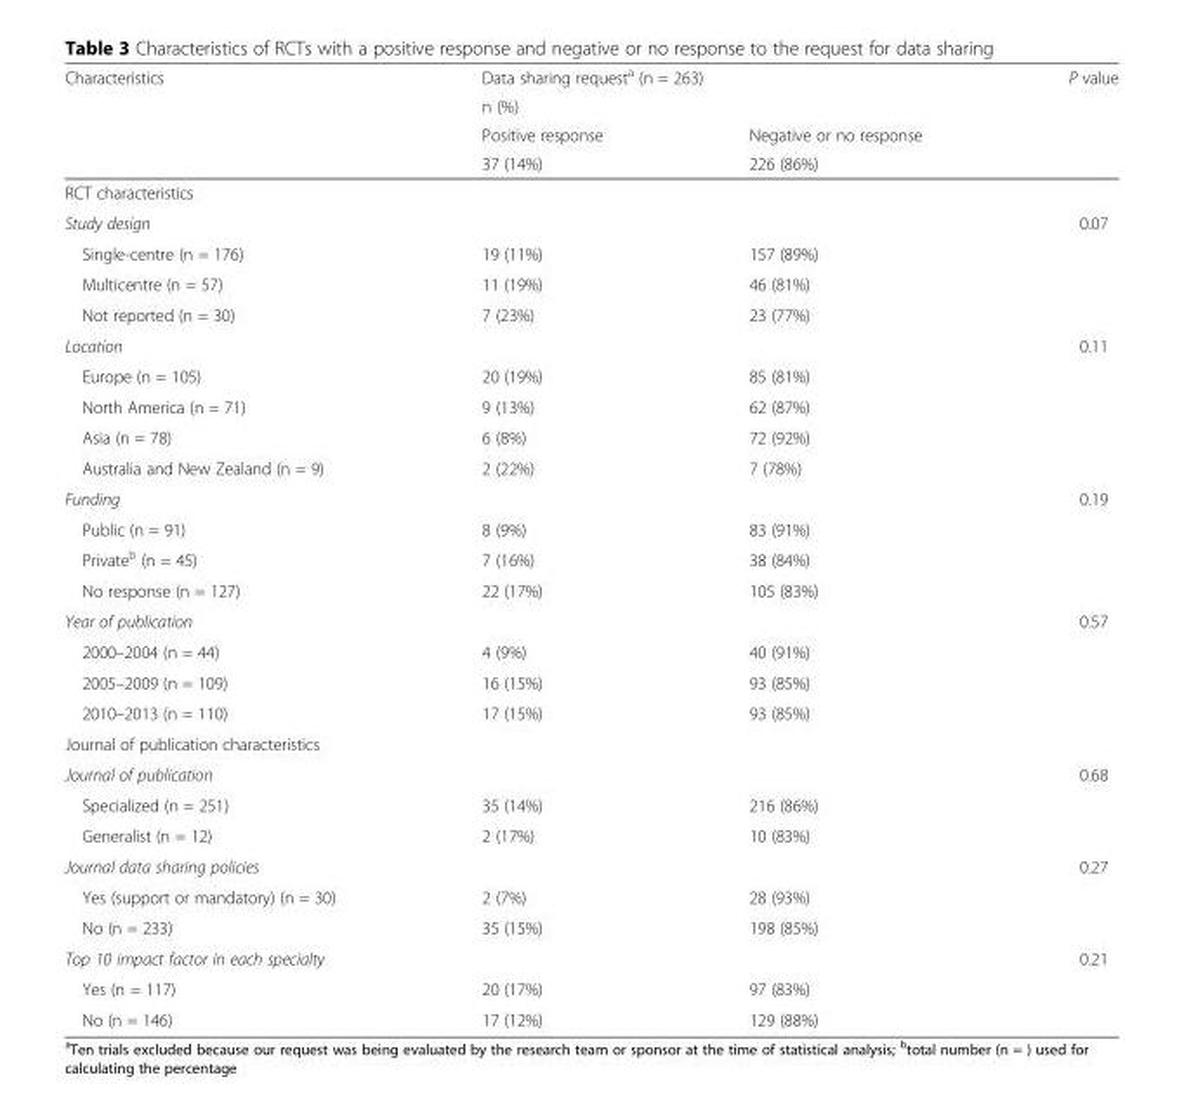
<table><thead><tr><td rowspan="4">Characteristics</td><td rowspan="2" colspan="2">Data sharing request<sup>a</sup> (n = 263) n (%)</td><td rowspan="4">P value</td></tr><tr></tr><tr><td rowspan="2">Positive response 37 (14%)</td><td rowspan="2">Negative or no response 226 (86%)</td></tr><tr></tr></thead><tbody><tr><td colspan="4">RCT characteristics</td></tr><tr><td colspan="3">Study design</td><td rowspan="4">0.07</td></tr><tr><td>Single-centre (n = 176)</td><td>19 (11%)</td><td>157 (89%)</td></tr><tr><td>Multicentre (n = 57)</td><td>11 (19%)</td><td>46 (81%)</td></tr><tr><td>Not reported (n = 30)</td><td>7 (23%)</td><td>23 (77%)</td></tr><tr><td colspan="3">Location</td><td rowspan="5">0.11</td></tr><tr><td>Europe (n = 105)</td><td>20 (19%)</td><td>85 (81%)</td></tr><tr><td>North America (n = 71)</td><td>9 (13%)</td><td>62 (87%)</td></tr><tr><td>Asia (n = 78)</td><td>6 (8%)</td><td>72 (92%)</td></tr><tr><td>Australia and New Zealand (n = 9)</td><td>2 (22%)</td><td>7 (78%)</td></tr><tr><td>Funding</td><td></td><td></td><td>0.19</td></tr><tr><td>Public (n = 91)</td><td>8 (9%)</td><td>83 (91%)</td><td rowspan="3"></td></tr><tr><td>Private<sup>b</sup> (n = 45)</td><td>7 (16%)</td><td>38 (84%)</td></tr><tr><td>No response (n = 127)</td><td>22 (17%)</td><td>105 (83%)</td></tr><tr><td colspan="3">Year of publication</td><td rowspan="4">0.57</td></tr><tr><td>2000–2004 (n = 44)</td><td>4 (9%)</td><td>40 (91%)</td></tr><tr><td>2005–2009 (n = 109)</td><td>16 (15%)</td><td>93 (85%)</td></tr><tr><td>2010–2013 (n = 110)</td><td>17 (15%)</td><td>93 (85%)</td></tr><tr><td colspan="4">Journal of publication characteristics</td></tr><tr><td colspan="3">Journal of publication</td><td rowspan="3">0.68</td></tr><tr><td>Specialized (n = 251)</td><td>35 (14%)</td><td>216 (86%)</td></tr><tr><td>Generalist (n = 12)</td><td>2 (17%)</td><td>10 (83%)</td></tr><tr><td colspan="3">Journal data sharing policies</td><td rowspan="3">0.27</td></tr><tr><td>Yes (support or mandatory) (n = 30)</td><td>2 (7%)</td><td>28 (93%)</td></tr><tr><td>No (n = 233)</td><td>35 (15%)</td><td>198 (85%)</td></tr><tr><td colspan="3">Top 10 impact factor in each specialty</td><td rowspan="3">0.21</td></tr><tr><td>Yes (n = 117)</td><td>20 (17%)</td><td>97 (83%)</td></tr><tr><td>No (n = 146)</td><td>17 (12%)</td><td>129 (88%)</td></tr></tbody></table>